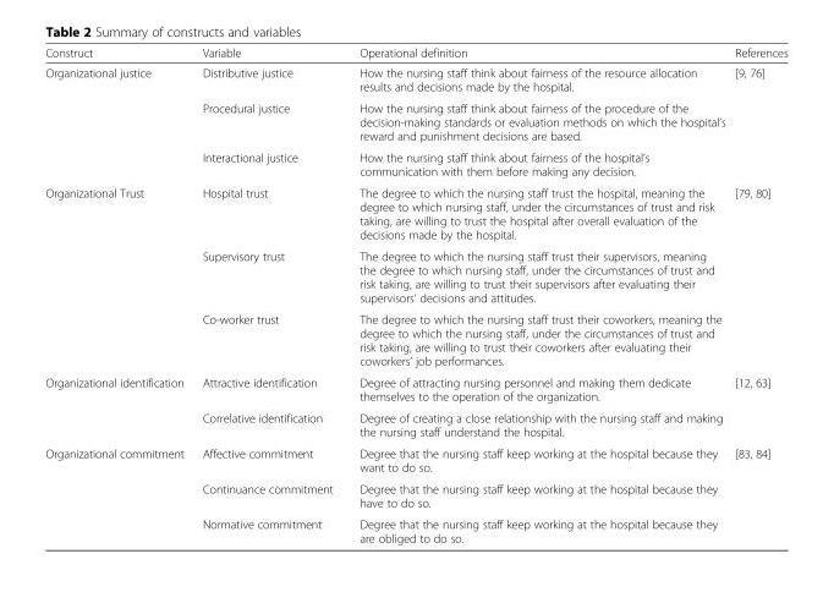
<table><thead><tr><td>Construct</td><td>Variable</td><td>Operational definition</td><td>References</td></tr></thead><tbody><tr><td rowspan="3">Organizational justice</td><td>Distributive justice</td><td>How the nursing staff think about fairness of the resource allocation results and decisions made by the hospital.</td><td rowspan="3">[9, 76]</td></tr><tr><td>Procedural justice</td><td>How the nursing staff think about fairness of the procedure of the decision-making standards or evaluation methods on which the hospital’s reward and punishment decisions are based.</td></tr><tr><td>Interactional justice</td><td>How the nursing staff think about fairness of the hospital’s communication with them before making any decision.</td></tr><tr><td rowspan="3">Organizational Trust</td><td>Hospital trust</td><td>The degree to which the nursing staff trust the hospital, meaning the degree to which nursing staff, under the circumstances of trust and risk taking, are willing to trust the hospital after overall evaluation of the decisions made by the hospital.</td><td rowspan="3">[79, 80]</td></tr><tr><td>Supervisory trust</td><td>The degree to which the nursing staff trust their supervisors, meaning the degree to which nursing staff, under the circumstances of trust and risk taking, are willing to trust their supervisors after evaluating their supervisors’ decisions and attitudes.</td></tr><tr><td>Co-worker trust</td><td>The degree to which the nursing staff trust their coworkers, meaning the degree to which the nursing staff, under the circumstances of trust and risk taking, are willing to trust their coworkers after evaluating their coworkers’ job performances.</td></tr><tr><td rowspan="2">Organizational identification</td><td>Attractive identification</td><td>Degree of attracting nursing personnel and making them dedicate themselves to the operation of the organization.</td><td rowspan="2">[12, 63]</td></tr><tr><td>Correlative identification</td><td>Degree of creating a close relationship with the nursing staff and making the nursing staff understand the hospital.</td></tr><tr><td rowspan="3">Organizational commitment</td><td>Affective commitment</td><td>Degree that the nursing staff keep working at the hospital because they want to do so.</td><td rowspan="3">[83, 84]</td></tr><tr><td>Continuance commitment</td><td>Degree that the nursing staff keep working at the hospital because they have to do so.</td></tr><tr><td>Normative commitment</td><td>Degree that the nursing staff keep working at the hospital because they are obliged to do so.</td></tr></tbody></table>